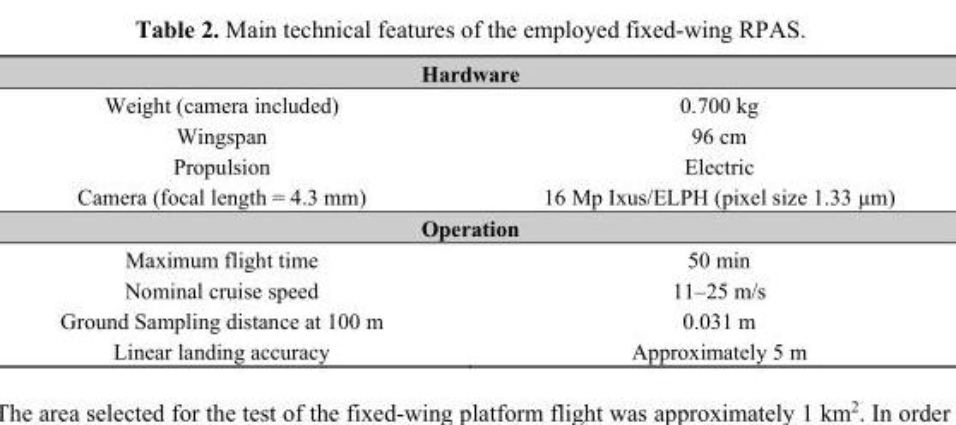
<table><thead><tr><td colspan="2">Hardware</td></tr><tr><td>Weight (camera included)</td><td>0.700 kg</td></tr></thead><tbody><tr><td>Wingspan</td><td>96 cm</td></tr><tr><td>Propulsion</td><td>Electric</td></tr><tr><td>Camera (focal length = 4.3 mm)</td><td>16 Mp Ixus/ELPH (pixel size 1.33 µm)</td></tr><tr><td colspan="2">Operation</td></tr><tr><td>Maximum flight time</td><td>50 min</td></tr><tr><td>Nominal cruise speed</td><td>11–25 m/s</td></tr><tr><td>Ground Sampling distance at 100 m</td><td>0.031 m</td></tr><tr><td>Linear landing accuracy</td><td>Approximately 5 m</td></tr></tbody></table>